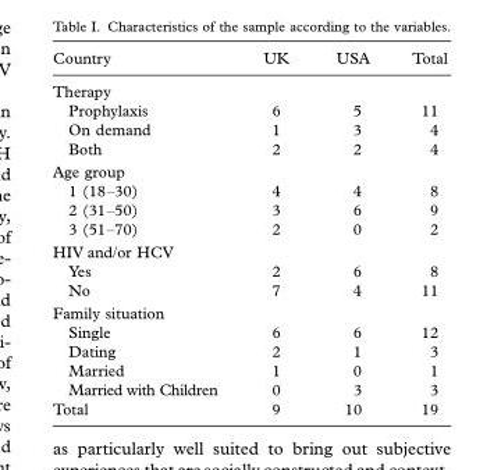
<table><thead><tr><td>Country</td><td>UK</td><td>USA</td><td>Total</td></tr></thead><tbody><tr><td colspan="4">Therapy</td></tr><tr><td>Prophylaxis</td><td>6</td><td>5</td><td>11</td></tr><tr><td>On demand</td><td>1</td><td>3</td><td>4</td></tr><tr><td>Both</td><td>2</td><td>2</td><td>4</td></tr><tr><td colspan="4">Age group</td></tr><tr><td>1 (18–30)</td><td>4</td><td>4</td><td>8</td></tr><tr><td>2 (31–50)</td><td>3</td><td>6</td><td>9</td></tr><tr><td>3 (51–70)</td><td>2</td><td>0</td><td>2</td></tr><tr><td colspan="4">HIV and/or HCV</td></tr><tr><td>Yes</td><td>2</td><td>6</td><td>8</td></tr><tr><td>No</td><td>7</td><td>4</td><td>11</td></tr><tr><td colspan="4">Family situation</td></tr><tr><td>Single</td><td>6</td><td>6</td><td>12</td></tr><tr><td>Dating</td><td>2</td><td>1</td><td>3</td></tr><tr><td>Married</td><td>1</td><td>0</td><td>1</td></tr><tr><td>Married with Children</td><td>0</td><td>3</td><td>3</td></tr><tr><td>Total</td><td>9</td><td>10</td><td>19</td></tr></tbody></table>